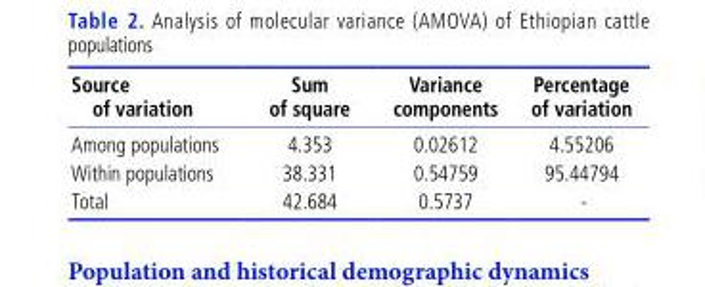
<table><thead><tr><td>Source of variation</td><td>Sum of square</td><td>Variance components</td><td>Percentage of variation</td></tr></thead><tbody><tr><td>Among populations</td><td>4.353</td><td>0.02612</td><td>4.55206</td></tr><tr><td>Within populations</td><td>38.331</td><td>0.54759</td><td>95.44794</td></tr><tr><td>Total</td><td>42.684</td><td>0.5737</td><td>-</td></tr></tbody></table>